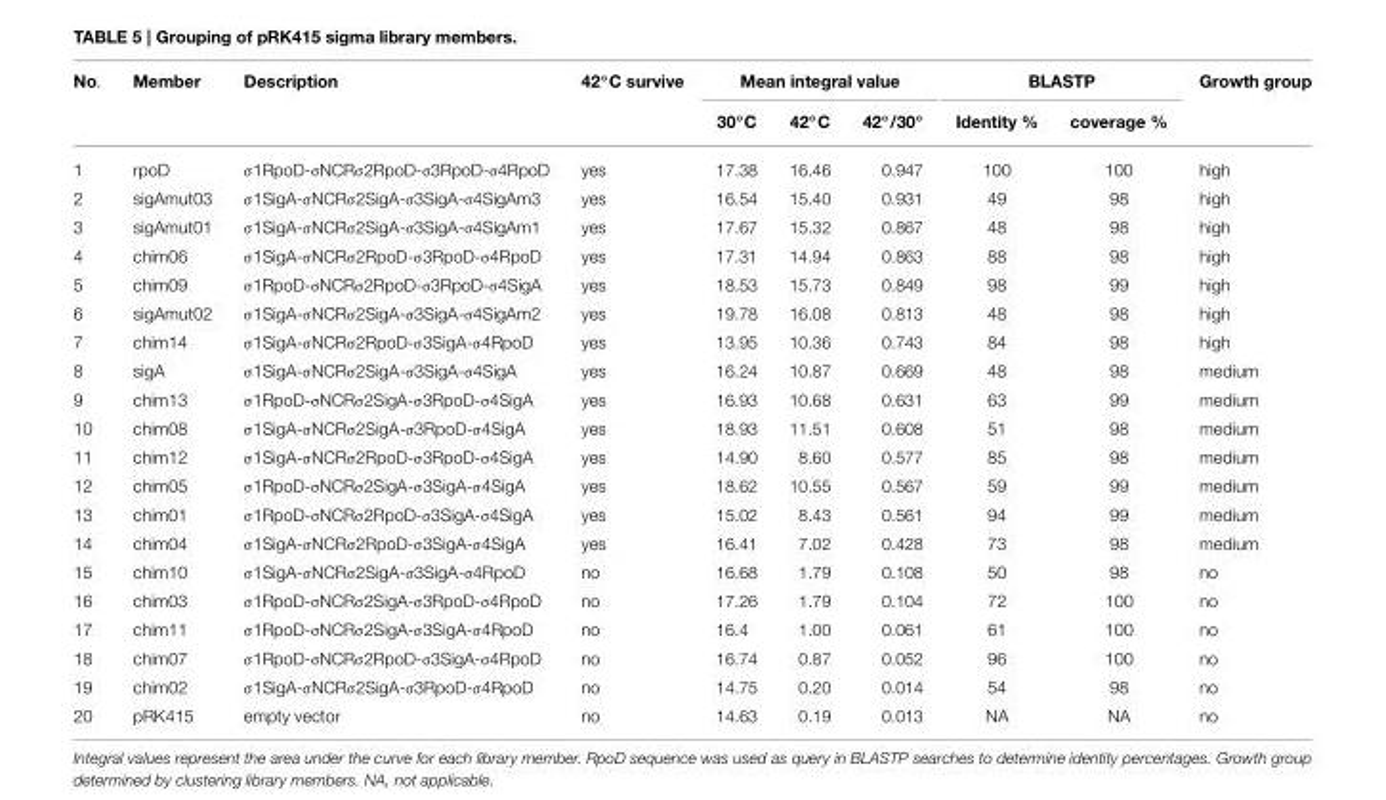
<table><thead><tr><td rowspan="2">No.</td><td rowspan="2">Member</td><td rowspan="2">Description</td><td rowspan="2">42◦C survive</td><td colspan="3">Mean integral value</td><td colspan="2">BLASTP</td><td rowspan="2">Growth group</td></tr><tr><td>30◦C</td><td>42◦C</td><td>42◦/30◦</td><td>Identity %</td><td>coverage %</td></tr></thead><tbody><tr><td>1</td><td>rpoD</td><td>σ1RpoD-σNCRσ2RpoD-σ3RpoD-σ4RpoD</td><td>yes</td><td>17.38</td><td>16.46</td><td>0.947</td><td>100</td><td>100</td><td>high</td></tr><tr><td>2</td><td>sigAmut03</td><td>σ1SigA-σNCRσ2SigA-σ3SigA-σ4SigAm3</td><td>yes</td><td>16.54</td><td>15.40</td><td>0.931</td><td>49</td><td>98</td><td>high</td></tr><tr><td>3</td><td>sigAmut01</td><td>σ1SigA-σNCRσ2SigA-σ3SigA-σ4SigAm1</td><td>yes</td><td>17.67</td><td>15.32</td><td>0.867</td><td>48</td><td>98</td><td>high</td></tr><tr><td>4</td><td>chim06</td><td>σ1SigA-σNCRσ2RpoD-σ3RpoD-σ4RpoD</td><td>yes</td><td>17.31</td><td>14.94</td><td>0.863</td><td>88</td><td>98</td><td>high</td></tr><tr><td>5</td><td>chim09</td><td>σ1RpoD-σNCRσ2RpoD-σ3RpoD-σ4SigA</td><td>yes</td><td>18.53</td><td>15.73</td><td>0.849</td><td>98</td><td>99</td><td>high</td></tr><tr><td>6</td><td>sigAmut02</td><td>σ1SigA-σNCRσ2SigA-σ3SigA-σ4SigAm2</td><td>yes</td><td>19.78</td><td>16.08</td><td>0.813</td><td>48</td><td>98</td><td>high</td></tr><tr><td>7</td><td>chim14</td><td>σ1SigA-σNCRσ2RpoD-σ3SigA-σ4RpoD</td><td>yes</td><td>13.95</td><td>10.36</td><td>0.743</td><td>84</td><td>98</td><td>high</td></tr><tr><td>8</td><td>sigA</td><td>σ1SigA-σNCRσ2SigA-σ3SigA-σ4SigA</td><td>yes</td><td>16.24</td><td>10.87</td><td>0.669</td><td>48</td><td>98</td><td>medium</td></tr><tr><td>9</td><td>chim13</td><td>σ1RpoD-σNCRσ2SigA-σ3RpoD-σ4SigA</td><td>yes</td><td>16.93</td><td>10.68</td><td>0.631</td><td>63</td><td>99</td><td>medium</td></tr><tr><td>10</td><td>chim08</td><td>σ1SigA-σNCRσ2SigA-σ3RpoD-σ4SigA</td><td>yes</td><td>18.93</td><td>11.51</td><td>0.608</td><td>51</td><td>98</td><td>medium</td></tr><tr><td>11</td><td>chim12</td><td>σ1SigA-σNCRσ2RpoD-σ3RpoD-σ4SigA</td><td>yes</td><td>14.90</td><td>8.60</td><td>0.577</td><td>85</td><td>98</td><td>medium</td></tr><tr><td>12</td><td>chim05</td><td>σ1RpoD-σNCRσ2SigA-σ3SigA-σ4SigA</td><td>yes</td><td>18.62</td><td>10.55</td><td>0.567</td><td>59</td><td>99</td><td>medium</td></tr><tr><td>13</td><td>chim01</td><td>σ1RpoD-σNCRσ2RpoD-σ3SigA-σ4SigA</td><td>yes</td><td>15.02</td><td>8.43</td><td>0.561</td><td>94</td><td>99</td><td>medium</td></tr><tr><td>14</td><td>chim04</td><td>σ1SigA-σNCRσ2RpoD-σ3SigA-σ4SigA</td><td>yes</td><td>16.41</td><td>7.02</td><td>0.428</td><td>73</td><td>98</td><td>medium</td></tr><tr><td>15</td><td>chim10</td><td>σ1SigA-σNCRσ2SigA-σ3SigA-σ4RpoD</td><td>no</td><td>16.68</td><td>1.79</td><td>0.108</td><td>50</td><td>98</td><td>no</td></tr><tr><td>16</td><td>chim03</td><td>σ1RpoD-σNCRσ2SigA-σ3RpoD-σ4RpoD</td><td>no</td><td>17.26</td><td>1.79</td><td>0.104</td><td>72</td><td>100</td><td>no</td></tr><tr><td>17</td><td>chim11</td><td>σ1RpoD-σNCRσ2SigA-σ3SigA-σ4RpoD</td><td>no</td><td>16.4</td><td>1.00</td><td>0.061</td><td>61</td><td>100</td><td>no</td></tr><tr><td>18</td><td>chim07</td><td>σ1RpoD-σNCRσ2RpoD-σ3SigA-σ4RpoD</td><td>no</td><td>16.74</td><td>0.87</td><td>0.052</td><td>96</td><td>100</td><td>no</td></tr><tr><td>19</td><td>chim02</td><td>σ1SigA-σNCRσ2SigA-σ3RpoD-σ4RpoD</td><td>no</td><td>14.75</td><td>0.20</td><td>0.014</td><td>54</td><td>98</td><td>no</td></tr><tr><td>20</td><td>pRK415</td><td>empty vector</td><td>no</td><td>14.63</td><td>0.19</td><td>0.013</td><td>NA</td><td>NA</td><td>no</td></tr></tbody></table>